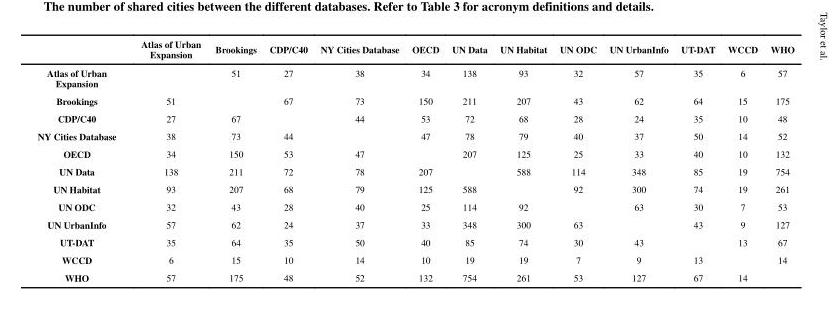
<table><thead><tr><td></td><td>Atlas of Urban Expansion</td><td>Brookings</td><td>CDP/C40</td><td>NY Cities Database</td><td>OECD</td><td>UN Data</td><td>UN Habitat</td><td>UN ODC</td><td>UN UrbanInfo</td><td>UT-DAT</td><td>WCCD</td><td>WHO</td></tr></thead><tbody><tr><td>Atlas of Urban Expansion</td><td></td><td>51</td><td>27</td><td>38</td><td>34</td><td>138</td><td>93</td><td>32</td><td>57</td><td>35</td><td>6</td><td>57</td></tr><tr><td>Brookings</td><td>51</td><td></td><td>67</td><td>73</td><td>150</td><td>211</td><td>207</td><td>43</td><td>62</td><td>64</td><td>15</td><td>175</td></tr><tr><td>CDP/C40</td><td>27</td><td>67</td><td></td><td>44</td><td>53</td><td>72</td><td>68</td><td>28</td><td>24</td><td>35</td><td>10</td><td>48</td></tr><tr><td>NY Cities Database</td><td>38</td><td>73</td><td>44</td><td></td><td>47</td><td>78</td><td>79</td><td>40</td><td>37</td><td>50</td><td>14</td><td>52</td></tr><tr><td>OECD</td><td>34</td><td>150</td><td>53</td><td>47</td><td></td><td>207</td><td>125</td><td>25</td><td>33</td><td>40</td><td>10</td><td>132</td></tr><tr><td>UN Data</td><td>138</td><td>211</td><td>72</td><td>78</td><td>207</td><td></td><td>588</td><td>114</td><td>348</td><td>85</td><td>19</td><td>754</td></tr><tr><td>UN Habitat</td><td>93</td><td>207</td><td>68</td><td>79</td><td>125</td><td>588</td><td></td><td>92</td><td>300</td><td>74</td><td>19</td><td>261</td></tr><tr><td>UN ODC</td><td>32</td><td>43</td><td>28</td><td>40</td><td>25</td><td>114</td><td>92</td><td></td><td>63</td><td>30</td><td>7</td><td>53</td></tr><tr><td>UN UrbanInfo</td><td>57</td><td>62</td><td>24</td><td>37</td><td>33</td><td>348</td><td>300</td><td>63</td><td></td><td>43</td><td>9</td><td>127</td></tr><tr><td>UT-DAT</td><td>35</td><td>64</td><td>35</td><td>50</td><td>40</td><td>85</td><td>74</td><td>30</td><td>43</td><td></td><td>13</td><td>67</td></tr><tr><td>WCCD</td><td>6</td><td>15</td><td>10</td><td>14</td><td>10</td><td>19</td><td>19</td><td>7</td><td>9</td><td>13</td><td></td><td>14</td></tr><tr><td>WHO</td><td>57</td><td>175</td><td>48</td><td>52</td><td>132</td><td>754</td><td>261</td><td>53</td><td>127</td><td>67</td><td>14</td><td></td></tr></tbody></table>